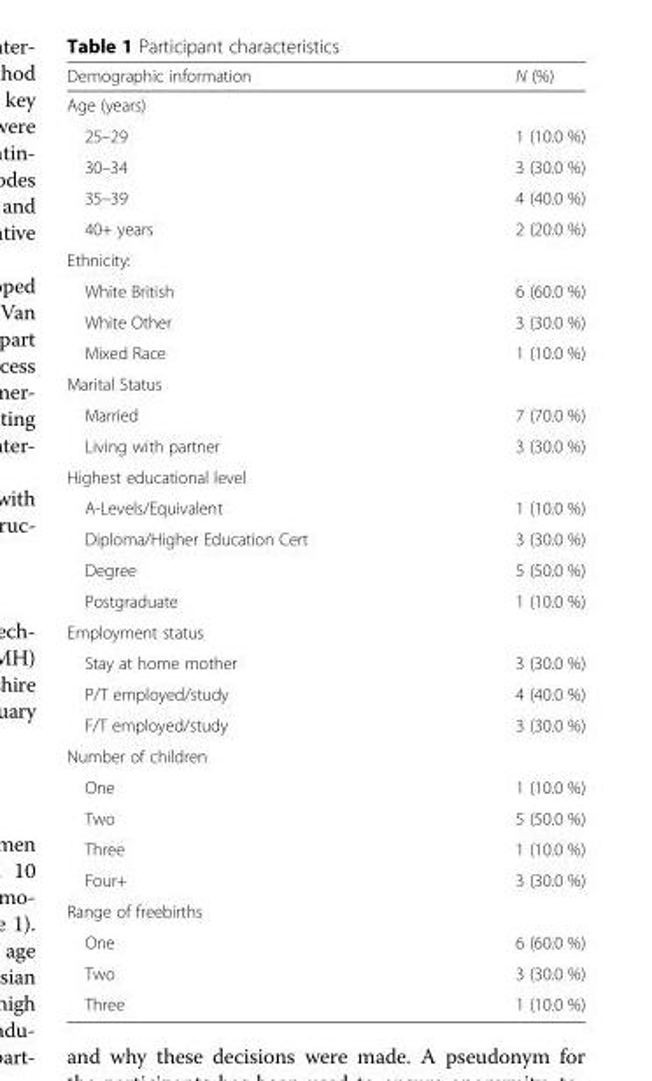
<table><thead><tr><td>Demographic information</td><td>N (%)</td></tr></thead><tbody><tr><td colspan="2">Age (years)</td></tr><tr><td>25–29</td><td>1 (10.0 %)</td></tr><tr><td>30–34</td><td>3 (30.0 %)</td></tr><tr><td>35–39</td><td>4 (40.0 %)</td></tr><tr><td>40+ years</td><td>2 (20.0 %)</td></tr><tr><td colspan="2">Ethnicity:</td></tr><tr><td>White British</td><td>6 (60.0 %)</td></tr><tr><td>White Other</td><td>3 (30.0 %)</td></tr><tr><td>Mixed Race</td><td>1 (10.0 %)</td></tr><tr><td colspan="2">Marital Status</td></tr><tr><td>Married</td><td>7 (70.0 %)</td></tr><tr><td>Living with partner</td><td>3 (30.0 %)</td></tr><tr><td colspan="2">Highest educational level</td></tr><tr><td>A-Levels/Equivalent</td><td>1 (10.0 %)</td></tr><tr><td>Diploma/Higher Education Cert</td><td>3 (30.0 %)</td></tr><tr><td>Degree</td><td>5 (50.0 %)</td></tr><tr><td>Postgraduate</td><td>1 (10.0 %)</td></tr><tr><td colspan="2">Employment status</td></tr><tr><td>Stay at home mother</td><td>3 (30.0 %)</td></tr><tr><td>P/T employed/study</td><td>4 (40.0 %)</td></tr><tr><td>F/T employed/study</td><td>3 (30.0 %)</td></tr><tr><td colspan="2">Number of children</td></tr><tr><td>One</td><td>1 (10.0 %)</td></tr><tr><td>Two</td><td>5 (50.0 %)</td></tr><tr><td>Three</td><td>1 (10.0 %)</td></tr><tr><td>Four+</td><td>3 (30.0 %)</td></tr><tr><td colspan="2">Range of freebirths</td></tr><tr><td>One</td><td>6 (60.0 %)</td></tr><tr><td>Two</td><td>3 (30.0 %)</td></tr><tr><td>Three</td><td>1 (10.0 %)</td></tr></tbody></table>